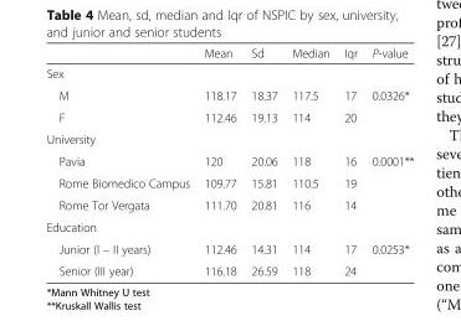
<table><thead><tr><td></td><td>Mean</td><td>Sd</td><td>Median</td><td>Iqr</td><td>P-value</td></tr></thead><tbody><tr><td colspan="6">Sex</td></tr><tr><td>M</td><td>118.17</td><td>18.37</td><td>117.5</td><td>17</td><td>0.0326*</td></tr><tr><td>F</td><td>112.46</td><td>19.13</td><td>114</td><td>20</td><td></td></tr><tr><td colspan="6">University</td></tr><tr><td>Pavia</td><td>120</td><td>20.06</td><td>118</td><td>16</td><td>0.0001**</td></tr><tr><td>Rome Biomedico Campus</td><td>109.77</td><td>15.81</td><td>110.5</td><td>19</td><td></td></tr><tr><td>Rome Tor Vergata</td><td>111.70</td><td>20.81</td><td>116</td><td>14</td><td></td></tr><tr><td colspan="6">Education</td></tr><tr><td>Junior (I – II years)</td><td>112.46</td><td>14.31</td><td>114</td><td>17</td><td>0.0253*</td></tr><tr><td>Senior (III year)</td><td>116.18</td><td>26.59</td><td>118</td><td>24</td><td></td></tr></tbody></table>